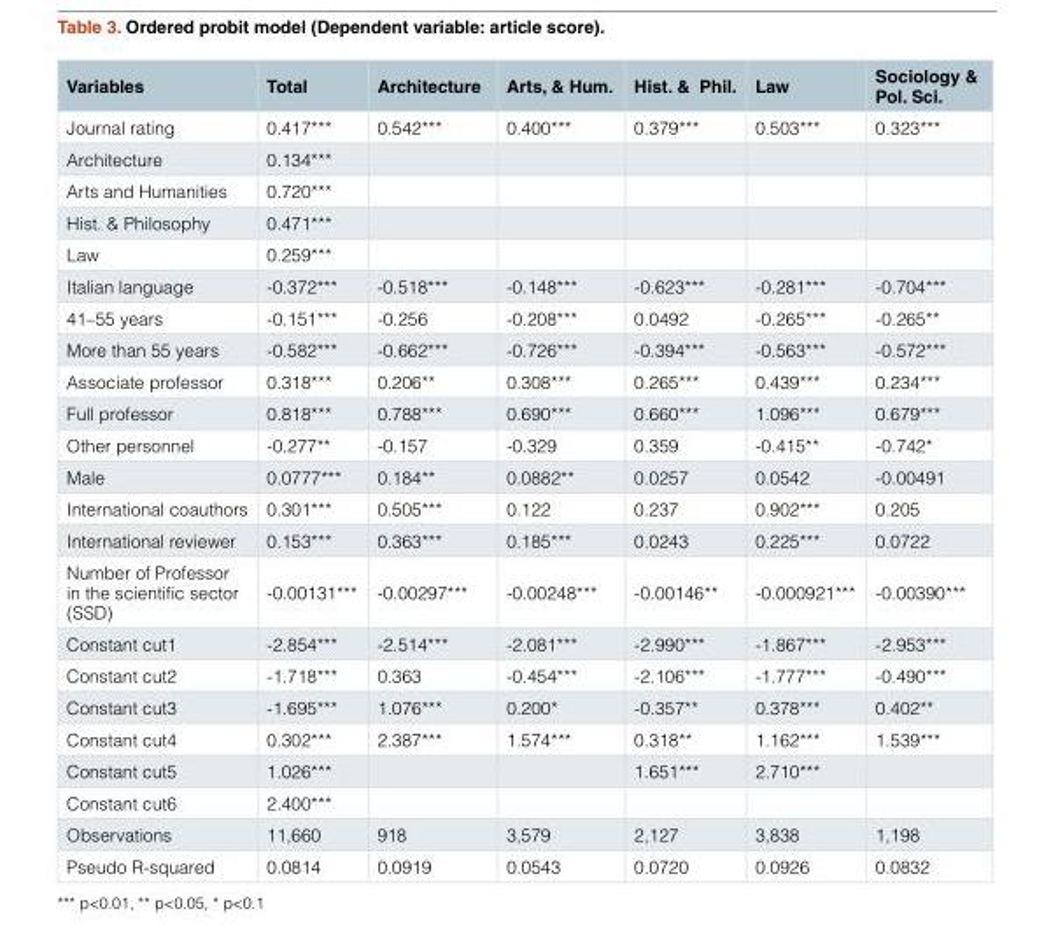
<table><thead><tr><td>Variables</td><td>Total</td><td>Architecture</td><td>Arts, &amp; Hum.</td><td>Hist. &amp; Phil.</td><td>Law</td><td>Sociology &amp; Pol. Sci.</td></tr></thead><tbody><tr><td>Journal rating</td><td>0.417***</td><td>0.542***</td><td>0.400***</td><td>0.379***</td><td>0.503***</td><td>0.323***</td></tr><tr><td>Architecture</td><td>0.134***</td><td></td><td></td><td></td><td></td><td></td></tr><tr><td>Arts and Humanities</td><td>0.720***</td><td></td><td></td><td></td><td></td><td></td></tr><tr><td>Hist. &amp; Philosophy</td><td>0.471***</td><td></td><td></td><td></td><td></td><td></td></tr><tr><td>Law</td><td>0.259***</td><td></td><td></td><td></td><td></td><td></td></tr><tr><td>Italian language</td><td>-0.372***</td><td>-0.518***</td><td>-0.148***</td><td>-0.623***</td><td>-0.281***</td><td>-0.704***</td></tr><tr><td>41–55 years</td><td>-0.151***</td><td>-0.256</td><td>-0.208***</td><td>0.0492</td><td>-0.265***</td><td>-0.265**</td></tr><tr><td>More than 55 years</td><td>-0.582***</td><td>-0.662***</td><td>-0.726***</td><td>-0.394***</td><td>-0.563***</td><td>-0.572***</td></tr><tr><td>Associate professor</td><td>0.318***</td><td>0.206**</td><td>0.308***</td><td>0.265***</td><td>0.439***</td><td>0.234***</td></tr><tr><td>Full professor</td><td>0.818***</td><td>0.788***</td><td>0.690***</td><td>0.660***</td><td>1.096***</td><td>0.679***</td></tr><tr><td>Other personnel</td><td>-0.277**</td><td>-0.157</td><td>-0.329</td><td>0.359</td><td>-0.415**</td><td>-0.742*</td></tr><tr><td>Male</td><td>0.0777***</td><td>0.184**</td><td>0.0882**</td><td>0.0257</td><td>0.0542</td><td>-0.00491</td></tr><tr><td>International coauthors</td><td>0.301***</td><td>0.505***</td><td>0.122</td><td>0.237</td><td>0.902***</td><td>0.205</td></tr><tr><td>International reviewer</td><td>0.153***</td><td>0.363***</td><td>0.185***</td><td>0.0243</td><td>0.225***</td><td>0.0722</td></tr><tr><td>Number of Professor in the scientific sector (SSD)</td><td>-0.00131***</td><td>-0.00297***</td><td>-0.00248***</td><td>-0.00146**</td><td>-0.000921***</td><td>-0.00390***</td></tr><tr><td>Constant cut1</td><td>-2.854***</td><td>-2.514***</td><td>-2.081***</td><td>-2.990***</td><td>-1.867***</td><td>-2.953***</td></tr><tr><td>Constant cut2</td><td>-1.718***</td><td>0.363</td><td>-0.454***</td><td>-2.106***</td><td>-1.777***</td><td>-0.490***</td></tr><tr><td>Constant cut3</td><td>-1.695***</td><td>1.076***</td><td>0.200*</td><td>-0.357**</td><td>0.378***</td><td>0.402**</td></tr><tr><td>Constant cut4</td><td>0.302***</td><td>2.387***</td><td>1.574***</td><td>0.318**</td><td>1.162***</td><td>1.539***</td></tr><tr><td>Constant cut5</td><td>1.026***</td><td></td><td></td><td>1.651***</td><td>2.710***</td><td></td></tr><tr><td>Constant cut6</td><td>2.400***</td><td></td><td></td><td></td><td></td><td></td></tr><tr><td>Observations</td><td>11,660</td><td>918</td><td>3,579</td><td>2,127</td><td>3,838</td><td>1,198</td></tr><tr><td>Pseudo R-squared</td><td>0.0814</td><td>0.0919</td><td>0.0543</td><td>0.0720</td><td>0.0926</td><td>0.0832</td></tr></tbody></table>